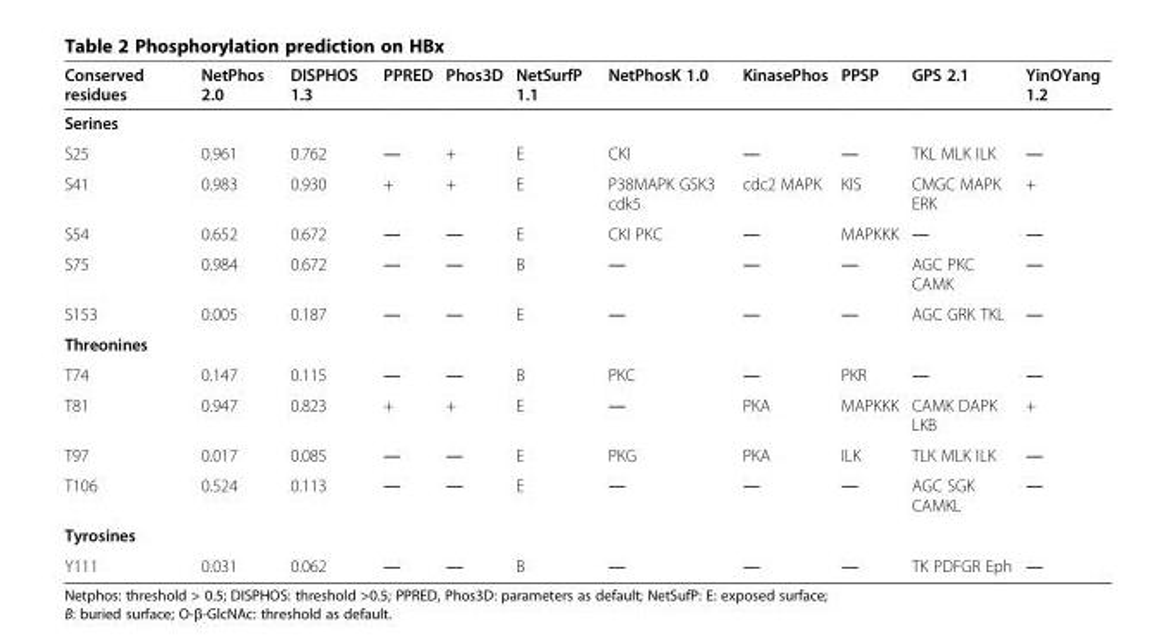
<table><thead><tr><td>Conserved residues</td><td>NetPhos 2.0</td><td>DISPHOS 1.3</td><td>PPRED</td><td>Phos3D</td><td>NetSurfP 1.1</td><td>NetPhosK 1.0</td><td>KinasePhos</td><td>PPSP</td><td>GPS 2.1</td><td>YinOYang 1.2</td></tr></thead><tbody><tr><td colspan="11">Serines</td></tr><tr><td>S25</td><td>0.961</td><td>0.762</td><td>―</td><td>+</td><td>E</td><td>CKI</td><td>―</td><td>―</td><td>TKL MLK ILK</td><td>―</td></tr><tr><td>S41</td><td>0.983</td><td>0.930</td><td>+</td><td>+</td><td>E</td><td>P38MAPK GSK3 cdk5</td><td>cdc2 MAPK</td><td>KIS</td><td>CMGC MAPK ERK</td><td>+</td></tr><tr><td>S54</td><td>0.652</td><td>0.672</td><td>―</td><td>―</td><td>E</td><td>CKI PKC</td><td>―</td><td>MAPKKK</td><td>―</td><td>―</td></tr><tr><td>S75</td><td>0.984</td><td>0.672</td><td>―</td><td>―</td><td>B</td><td>―</td><td>―</td><td>―</td><td>AGC PKC CAMK</td><td>―</td></tr><tr><td>S153</td><td>0.005</td><td>0.187</td><td>―</td><td>―</td><td>E</td><td>―</td><td>―</td><td>―</td><td>AGC GRK TKL</td><td>―</td></tr><tr><td colspan="11">Threonines</td></tr><tr><td>T74</td><td>0.147</td><td>0.115</td><td>―</td><td>―</td><td>B</td><td>PKC</td><td>―</td><td>PKR</td><td>―</td><td>―</td></tr><tr><td>T81</td><td>0.947</td><td>0.823</td><td>+</td><td>+</td><td>E</td><td>―</td><td>PKA</td><td>MAPKKK</td><td>CAMK DAPK LKB</td><td>+</td></tr><tr><td>T97</td><td>0.017</td><td>0.085</td><td>―</td><td>―</td><td>E</td><td>PKG</td><td>PKA</td><td>ILK</td><td>TLK MLK ILK</td><td>―</td></tr><tr><td>T106</td><td>0.524</td><td>0.113</td><td>―</td><td>―</td><td>E</td><td>―</td><td>―</td><td>―</td><td>AGC SGK CAMKL</td><td>―</td></tr><tr><td colspan="11">Tyrosines</td></tr><tr><td>Y111</td><td>0.031</td><td>0.062</td><td>―</td><td>―</td><td>B</td><td>―</td><td>―</td><td>―</td><td>TK PDFGR Eph</td><td>―</td></tr></tbody></table>